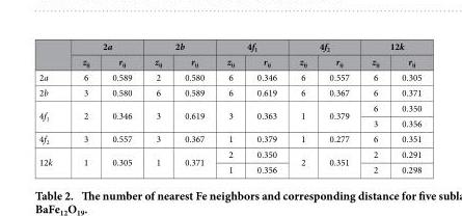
<table><thead><tr><td rowspan="2"></td><td colspan="2">2a</td><td colspan="2">2b</td><td colspan="2">4f<sub>1</sub></td><td colspan="2">4f<sub>2</sub></td><td colspan="2">12k</td></tr><tr><td>z<sub>ij</sub></td><td>rij</td><td>z<sub>ij</sub></td><td>rij</td><td>z<sub>ij</sub></td><td>rij</td><td>z<sub>ij</sub></td><td>rij</td><td>z<sub>ij</sub></td><td>rij</td></tr></thead><tbody><tr><td>2a</td><td>6</td><td>0.589</td><td>2</td><td>0.580</td><td>6</td><td>0.346</td><td>6</td><td>0.557</td><td>6</td><td>0.305</td></tr><tr><td>2b</td><td>3</td><td>0.580</td><td>6</td><td>0.589</td><td>6</td><td>0.619</td><td>6</td><td>0.367</td><td>6</td><td>0.371</td></tr><tr><td rowspan="2">4f<sub>1</sub></td><td rowspan="2">2</td><td rowspan="2">0.346</td><td rowspan="2">3</td><td rowspan="2">0.619</td><td rowspan="2">3</td><td rowspan="2">0.363</td><td rowspan="2">1</td><td rowspan="2">0.379</td><td>6</td><td>0.350</td></tr><tr><td>3</td><td>0.356</td></tr><tr><td>4f<sub>2</sub></td><td>3</td><td>0.557</td><td>3</td><td>0.367</td><td>1</td><td>0.379</td><td>1</td><td>0.277</td><td>6</td><td>0.351</td></tr><tr><td rowspan="2">12k</td><td rowspan="2">1</td><td rowspan="2">0.305</td><td rowspan="2">1</td><td rowspan="2">0.371</td><td>2</td><td>0.350</td><td rowspan="2">2</td><td rowspan="2">0.351</td><td>2</td><td>0.291</td></tr><tr><td>1</td><td>0.356</td><td>2</td><td>0.298</td></tr></tbody></table>